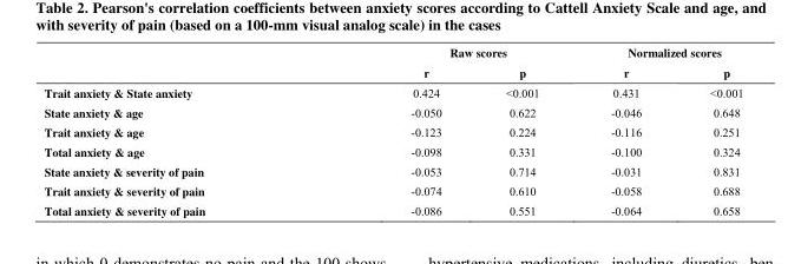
<table><thead><tr><td rowspan="2"></td><td colspan="2">Raw scores</td><td colspan="2">Normalized scores</td></tr><tr><td>r</td><td>p</td><td>r</td><td>p</td></tr></thead><tbody><tr><td>Trait anxiety &amp; State anxiety</td><td>0.424</td><td>&lt;0.001</td><td>0.431</td><td>&lt;0.001</td></tr><tr><td>State anxiety &amp; age</td><td>-0.050</td><td>0.622</td><td>-0.046</td><td>0.648</td></tr><tr><td>Trait anxiety &amp; age</td><td>-0.123</td><td>0.224</td><td>-0.116</td><td>0.251</td></tr><tr><td>Total anxiety &amp; age</td><td>-0.098</td><td>0.331</td><td>-0.100</td><td>0.324</td></tr><tr><td>State anxiety &amp; severity of pain</td><td>-0.053</td><td>0.714</td><td>-0.031</td><td>0.831</td></tr><tr><td>Trait anxiety &amp; severity of pain</td><td>-0.074</td><td>0.610</td><td>-0.058</td><td>0.688</td></tr><tr><td>Total anxiety &amp; severity of pain</td><td>-0.086</td><td>0.551</td><td>-0.064</td><td>0.658</td></tr></tbody></table>